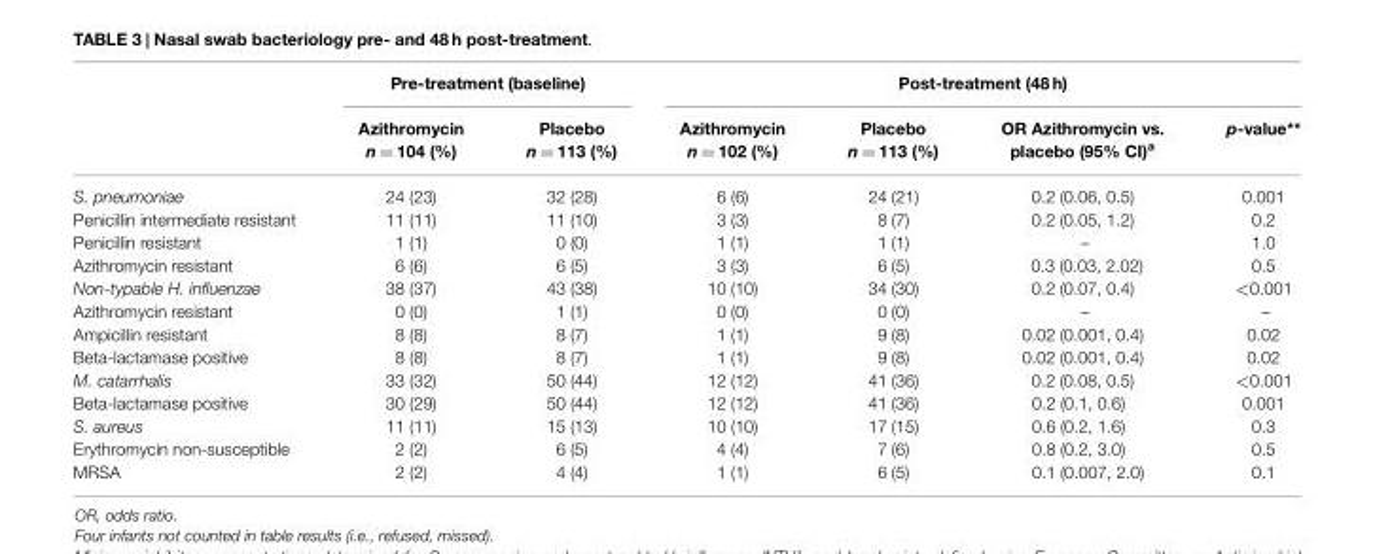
<table><thead><tr><td rowspan="2"></td><td colspan="2">Pre-treatment (baseline)</td><td colspan="4">Post-treatment (48 h)</td></tr><tr><td>Azithromycin n = 104 (%)</td><td>Placebo n = 113 (%)</td><td>Azithromycin n = 102 (%)</td><td>Placebo n = 113 (%)</td><td>OR Azithromycin vs. placebo (95% CI)<sup>a</sup></td><td>p-value**</td></tr></thead><tbody><tr><td>S. pneumoniae</td><td>24 (23)</td><td>32 (28)</td><td>6 (6)</td><td>24 (21)</td><td>0.2 (0.06, 0.5)</td><td>0.001</td></tr><tr><td>Penicillin intermediate resistant</td><td>11 (11)</td><td>11 (10)</td><td>3 (3)</td><td>8 (7)</td><td>0.2 (0.05, 1.2)</td><td>0.2</td></tr><tr><td>Penicillin resistant</td><td>1 (1)</td><td>0 (0)</td><td>1 (1)</td><td>1 (1)</td><td>–</td><td>1.0</td></tr><tr><td>Azithromycin resistant</td><td>6 (6)</td><td>6 (5)</td><td>3 (3)</td><td>6 (5)</td><td>0.3 (0.03, 2.02)</td><td>0.5</td></tr><tr><td>Non-typable H. influenzae</td><td>38 (37)</td><td>43 (38)</td><td>10 (10)</td><td>34 (30)</td><td>0.2 (0.07, 0.4)</td><td>&lt;0.001</td></tr><tr><td>Azithromycin resistant</td><td>0 (0)</td><td>1 (1)</td><td>0 (0)</td><td>0 (0)</td><td>–</td><td>–</td></tr><tr><td>Ampicillin resistant</td><td>8 (8)</td><td>8 (7)</td><td>1 (1)</td><td>9 (8)</td><td>0.02 (0.001, 0.4)</td><td>0.02</td></tr><tr><td>Beta-lactamase positive</td><td>8 (8)</td><td>8 (7)</td><td>1 (1)</td><td>9 (8)</td><td>0.02 (0.001, 0.4)</td><td>0.02</td></tr><tr><td>M. catarrhalis</td><td>33 (32)</td><td>50 (44)</td><td>12 (12)</td><td>41 (36)</td><td>0.2 (0.08, 0.5)</td><td>&lt;0.001</td></tr><tr><td>Beta-lactamase positive</td><td>30 (29)</td><td>50 (44)</td><td>12 (12)</td><td>41 (36)</td><td>0.2 (0.1, 0.6)</td><td>0.001</td></tr><tr><td>S. aureus</td><td>11 (11)</td><td>15 (13)</td><td>10 (10)</td><td>17 (15)</td><td>0.6 (0.2, 1.6)</td><td>0.3</td></tr><tr><td>Erythromycin non-susceptible</td><td>2 (2)</td><td>6 (5)</td><td>4 (4)</td><td>7 (6)</td><td>0.8 (0.2, 3.0)</td><td>0.5</td></tr><tr><td>MRSA</td><td>2 (2)</td><td>4 (4)</td><td>1 (1)</td><td>6 (5)</td><td>0.1 (0.007, 2.0)</td><td>0.1</td></tr></tbody></table>